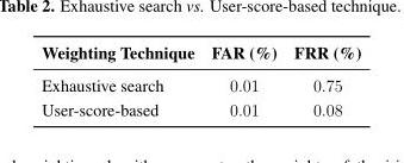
<table><thead><tr><td>Weighting Technique</td><td>FAR (%)</td><td>FRR (%)</td></tr></thead><tbody><tr><td>Exhaustive search</td><td>0.01</td><td>0.75</td></tr><tr><td>User-score-based</td><td>0.01</td><td>0.08</td></tr></tbody></table>